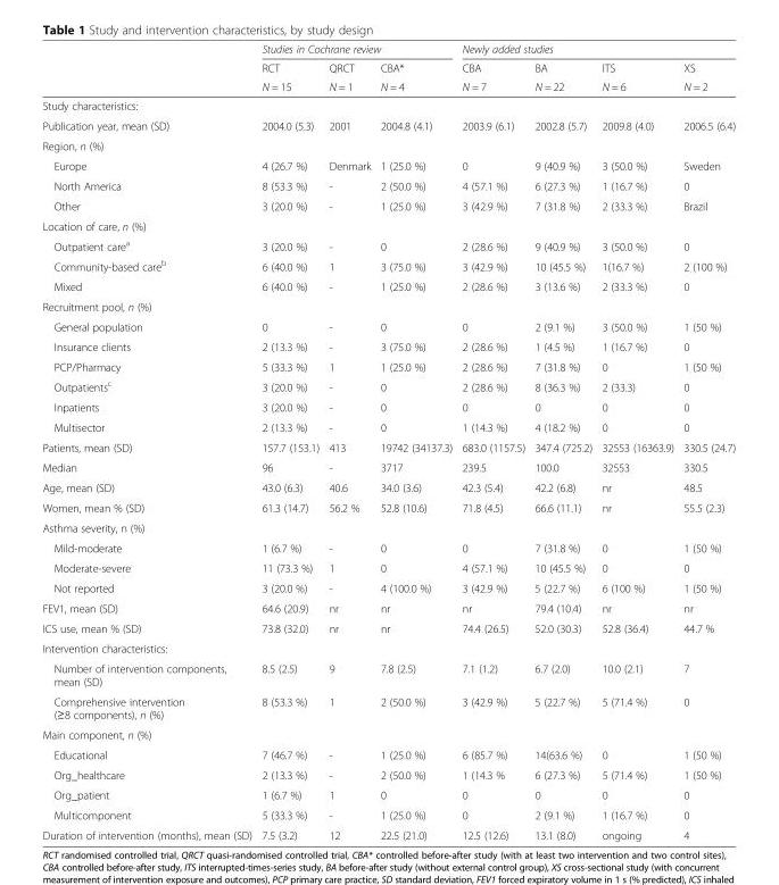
<table><thead><tr><td rowspan="3"></td><td colspan="3">Studies in Cochrane review</td><td colspan="4">Newly added studies</td></tr><tr><td rowspan="2">RCT N = 15</td><td rowspan="2">QRCT N = 1</td><td rowspan="2">CBA* N = 4</td><td rowspan="2">CBA N = 7</td><td rowspan="2">BA N = 22</td><td rowspan="2">ITS N = 6</td><td rowspan="2">XS N = 2</td></tr><tr></tr></thead><tbody><tr><td colspan="8">Study characteristics:</td></tr><tr><td>Publication year, mean (SD)</td><td>2004.0 (5.3)</td><td>2001</td><td>2004.8 (4.1)</td><td>2003.9 (6.1)</td><td>2002.8 (5.7)</td><td>2009.8 (4.0)</td><td>2006.5 (6.4)</td></tr><tr><td colspan="8">Region, n (%)</td></tr><tr><td>Europe</td><td>4 (26.7 %)</td><td>Denmark</td><td>1 (25.0 %)</td><td>0</td><td>9 (40.9 %)</td><td>3 (50.0 %)</td><td>Sweden</td></tr><tr><td>North America</td><td>8 (53.3 %)</td><td>-</td><td>2 (50.0 %)</td><td>4 (57.1 %)</td><td>6 (27.3 %)</td><td>1 (16.7 %)</td><td>0</td></tr><tr><td>Other</td><td>3 (20.0 %)</td><td>-</td><td>1 (25.0 %)</td><td>3 (42.9 %)</td><td>7 (31.8 %)</td><td>2 (33.3 %)</td><td>Brazil</td></tr><tr><td colspan="8">Location of care, n (%)</td></tr><tr><td>Outpatient care<sup>a</sup></td><td>3 (20.0 %)</td><td>-</td><td>0</td><td>2 (28.6 %)</td><td>9 (40.9 %)</td><td>3 (50.0 %)</td><td>0</td></tr><tr><td>Community-based care<sup>b</sup></td><td>6 (40.0 %)</td><td>1</td><td>3 (75.0 %)</td><td>3 (42.9 %)</td><td>10 (45.5 %)</td><td>1(16.7 %)</td><td>2 (100 %)</td></tr><tr><td>Mixed</td><td>6 (40.0 %)</td><td>-</td><td>1 (25.0 %)</td><td>2 (28.6 %)</td><td>3 (13.6 %)</td><td>2 (33.3 %)</td><td>0</td></tr><tr><td colspan="8">Recruitment pool, n (%)</td></tr><tr><td>General population</td><td>0</td><td>-</td><td>0</td><td>0</td><td>2 (9.1 %)</td><td>3 (50.0 %)</td><td>1 (50 %)</td></tr><tr><td>Insurance clients</td><td>2 (13.3 %)</td><td>-</td><td>3 (75.0 %)</td><td>2 (28.6 %)</td><td>1 (4.5 %)</td><td>1 (16.7 %)</td><td>0</td></tr><tr><td>PCP/Pharmacy</td><td>5 (33.3 %)</td><td>1</td><td>1 (25.0 %)</td><td>2 (28.6 %)</td><td>7 (31.8 %)</td><td>0</td><td>1 (50 %)</td></tr><tr><td>Outpatients<sup>c</sup></td><td>3 (20.0 %)</td><td>-</td><td>0</td><td>2 (28.6 %)</td><td>8 (36.3 %)</td><td>2 (33.3)</td><td>0</td></tr><tr><td>Inpatients</td><td>3 (20.0 %)</td><td>-</td><td>0</td><td>0</td><td>0</td><td>0</td><td>0</td></tr><tr><td>Multisector</td><td>2 (13.3 %)</td><td>-</td><td>0</td><td>1 (14.3 %)</td><td>4 (18.2 %)</td><td>0</td><td>0</td></tr><tr><td>Patients, mean (SD)</td><td>157.7 (153.1)</td><td>413</td><td>19742 (34137.3)</td><td>683.0 (1157.5)</td><td>347.4 (725.2)</td><td>32553 (16363.9)</td><td>330.5 (24.7)</td></tr><tr><td>Median</td><td>96</td><td>-</td><td>3717</td><td>239.5</td><td>100.0</td><td>32553</td><td>330.5</td></tr><tr><td>Age, mean (SD)</td><td>43.0 (6.3)</td><td>40.6</td><td>34.0 (3.6)</td><td>42.3 (5.4)</td><td>42.2 (6.8)</td><td>nr</td><td>48.5</td></tr><tr><td>Women, mean % (SD)</td><td>61.3 (14.7)</td><td>56.2 %</td><td>52.8 (10.6)</td><td>71.8 (4.5)</td><td>66.6 (11.1)</td><td>nr</td><td>55.5 (2.3)</td></tr><tr><td colspan="8">Asthma severity, n (%)</td></tr><tr><td>Mild-moderate</td><td>1 (6.7 %)</td><td>-</td><td>0</td><td>0</td><td>7 (31.8 %)</td><td>0</td><td>1 (50 %)</td></tr><tr><td>Moderate-severe</td><td>11 (73.3 %)</td><td>1</td><td>0</td><td>4 (57.1 %)</td><td>10 (45.5 %)</td><td>0</td><td>0</td></tr><tr><td>Not reported</td><td>3 (20.0 %)</td><td>-</td><td>4 (100.0 %)</td><td>3 (42.9 %)</td><td>5 (22.7 %)</td><td>6 (100 %)</td><td>1 (50 %)</td></tr><tr><td>FEV1, mean (SD)</td><td>64.6 (20.9)</td><td>nr</td><td>nr</td><td>nr</td><td>79.4 (10.4)</td><td>nr</td><td>nr</td></tr><tr><td>ICS use, mean % (SD)</td><td>73.8 (32.0)</td><td>nr</td><td>nr</td><td>74.4 (26.5)</td><td>52.0 (30.3)</td><td>52.8 (36.4)</td><td>44.7 %</td></tr><tr><td colspan="8">Intervention characteristics:</td></tr><tr><td>Number of intervention components, mean (SD)</td><td>8.5 (2.5)</td><td>9</td><td>7.8 (2.5)</td><td>7.1 (1.2)</td><td>6.7 (2.0)</td><td>10.0 (2.1)</td><td>7</td></tr><tr><td>Comprehensive intervention (≥8 components), n (%)</td><td>8 (53.3 %)</td><td>1</td><td>2 (50.0 %)</td><td>3 (42.9 %)</td><td>5 (22.7 %)</td><td>5 (71.4 %)</td><td>0</td></tr><tr><td colspan="8">Main component, n (%)</td></tr><tr><td>Educational</td><td>7 (46.7 %)</td><td>-</td><td>1 (25.0 %)</td><td>6 (85.7 %)</td><td>14(63.6 %)</td><td>0</td><td>1 (50 %)</td></tr><tr><td>Org_healthcare</td><td>2 (13.3 %)</td><td>-</td><td>2 (50.0 %)</td><td>1 (14.3 %</td><td>6 (27.3 %)</td><td>5 (71.4 %)</td><td>1 (50 %)</td></tr><tr><td>Org_patient</td><td>1 (6.7 %)</td><td>1</td><td>0</td><td>0</td><td>0</td><td>0</td><td>0</td></tr><tr><td>Multicomponent</td><td>5 (33.3 %)</td><td>-</td><td>1 (25.0 %)</td><td>0</td><td>2 (9.1 %)</td><td>1 (16.7 %)</td><td>0</td></tr><tr><td>Duration of intervention (months), mean (SD)</td><td>7.5 (3.2)</td><td>12</td><td>22.5 (21.0)</td><td>12.5 (12.6)</td><td>13.1 (8.0)</td><td>ongoing</td><td>4</td></tr></tbody></table>